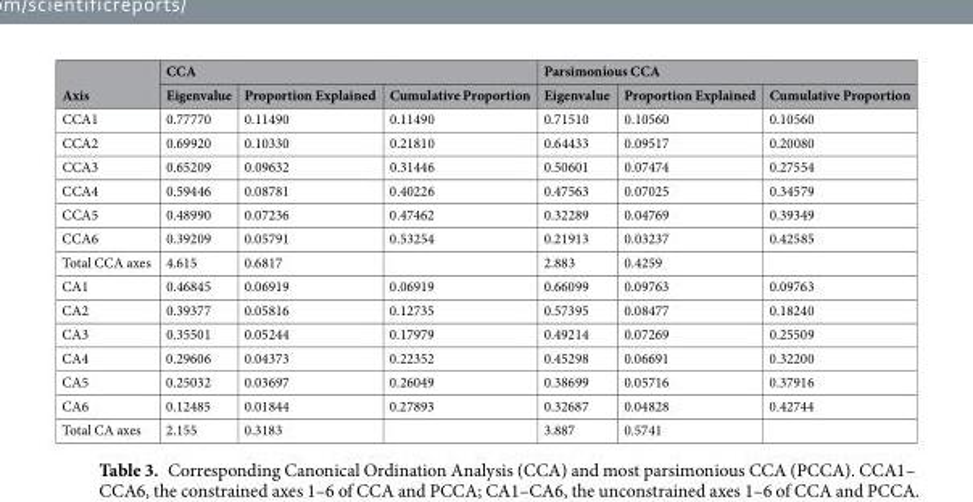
<table><thead><tr><td rowspan="2">Axis</td><td colspan="3">CCA</td><td colspan="3">Parsimonious CCA</td></tr><tr><td>Eigenvalue</td><td>Proportion Explained</td><td>Cumulative Proportion</td><td>Eigenvalue</td><td>Proportion Explained</td><td>Cumulative Proportion</td></tr></thead><tbody><tr><td>CCA1</td><td>0.77770</td><td>0.11490</td><td>0.11490</td><td>0.71510</td><td>0.10560</td><td>0.10560</td></tr><tr><td>CCA2</td><td>0.69920</td><td>0.10330</td><td>0.21810</td><td>0.64433</td><td>0.09517</td><td>0.20080</td></tr><tr><td>CCA3</td><td>0.65209</td><td>0.09632</td><td>0.31446</td><td>0.50601</td><td>0.07474</td><td>0.27554</td></tr><tr><td>CCA4</td><td>0.59446</td><td>0.08781</td><td>0.40226</td><td>0.47563</td><td>0.07025</td><td>0.34579</td></tr><tr><td>CCA5</td><td>0.48990</td><td>0.07236</td><td>0.47462</td><td>0.32289</td><td>0.04769</td><td>0.39349</td></tr><tr><td>CCA6</td><td>0.39209</td><td>0.05791</td><td>0.53254</td><td>0.21913</td><td>0.03237</td><td>0.42585</td></tr><tr><td>Total CCA axes</td><td>4.615</td><td>0.6817</td><td></td><td>2.883</td><td>0.4259</td><td></td></tr><tr><td>CA1</td><td>0.46845</td><td>0.06919</td><td>0.06919</td><td>0.66099</td><td>0.09763</td><td>0.09763</td></tr><tr><td>CA2</td><td>0.39377</td><td>0.05816</td><td>0.12735</td><td>0.57395</td><td>0.08477</td><td>0.18240</td></tr><tr><td>CA3</td><td>0.35501</td><td>0.05244</td><td>0.17979</td><td>0.49214</td><td>0.07269</td><td>0.25509</td></tr><tr><td>CA4</td><td>0.29606</td><td>0.04373</td><td>0.22352</td><td>0.45298</td><td>0.06691</td><td>0.32200</td></tr><tr><td>CA5</td><td>0.25032</td><td>0.03697</td><td>0.26049</td><td>0.38699</td><td>0.05716</td><td>0.37916</td></tr><tr><td>CA6</td><td>0.12485</td><td>0.01844</td><td>0.27893</td><td>0.32687</td><td>0.04828</td><td>0.42744</td></tr><tr><td>Total CA axes</td><td>2.155</td><td>0.3183</td><td></td><td>3.887</td><td>0.5741</td><td></td></tr></tbody></table>